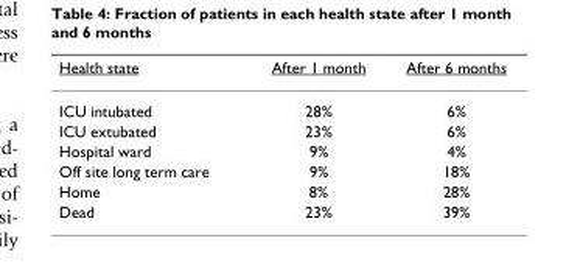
<table><thead><tr><td>Health state</td><td>After 1 month</td><td>After 6 months</td></tr></thead><tbody><tr><td>ICU intubated</td><td>28%</td><td>6%</td></tr><tr><td>ICU extubated</td><td>23%</td><td>6%</td></tr><tr><td>Hospital ward</td><td>9%</td><td>4%</td></tr><tr><td>Off site long term care</td><td>9%</td><td>18%</td></tr><tr><td>Home</td><td>8%</td><td>28%</td></tr><tr><td>Dead</td><td>23%</td><td>39%</td></tr></tbody></table>